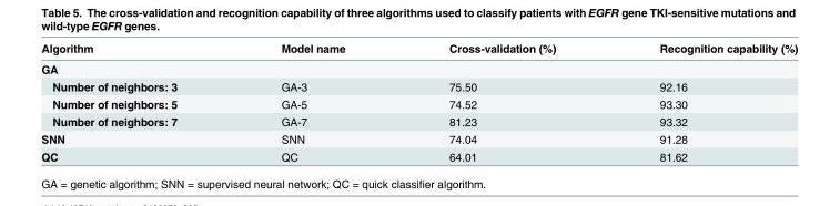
<table><thead><tr><td>Algorithm</td><td>Model name</td><td>Cross-validation (%)</td><td>Recognition capability (%)</td></tr></thead><tbody><tr><td colspan="4">GA</td></tr><tr><td>Number of neighbors: 3</td><td>GA-3</td><td>75.50</td><td>92.16</td></tr><tr><td>Number of neighbors: 5</td><td>GA-5</td><td>74.52</td><td>93.30</td></tr><tr><td>Number of neighbors: 7</td><td>GA-7</td><td>81.23</td><td>93.32</td></tr><tr><td>SNN</td><td>SNN</td><td>74.04</td><td>91.28</td></tr><tr><td>QC</td><td>QC</td><td>64.01</td><td>81.62</td></tr></tbody></table>